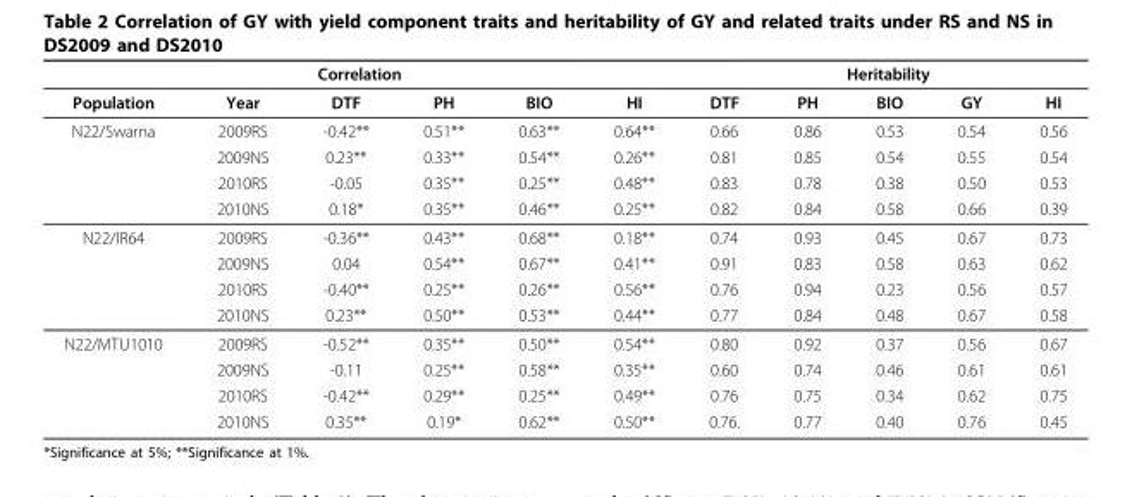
<table><thead><tr><td colspan="6">Correlation</td><td colspan="5">Heritability</td></tr><tr><td>Population</td><td>Year</td><td>DTF</td><td>PH</td><td>BIO</td><td>HI</td><td>DTF</td><td>PH</td><td>BIO</td><td>GY</td><td>HI</td></tr></thead><tbody><tr><td rowspan="4">N22/Swarna</td><td>2009RS</td><td>-0.42**</td><td>0.51**</td><td>0.63**</td><td>0.64**</td><td>0.66</td><td>0.86</td><td>0.53</td><td>0.54</td><td>0.56</td></tr><tr><td>2009NS</td><td>0.23**</td><td>0.33**</td><td>0.54**</td><td>0.26**</td><td>0.81</td><td>0.85</td><td>0.54</td><td>0.55</td><td>0.54</td></tr><tr><td>2010RS</td><td>-0.05</td><td>0.35**</td><td>0.25**</td><td>0.48**</td><td>0.83</td><td>0.78</td><td>0.38</td><td>0.50</td><td>0.53</td></tr><tr><td>2010NS</td><td>0.18*</td><td>0.35**</td><td>0.46**</td><td>0.25**</td><td>0.82</td><td>0.84</td><td>0.58</td><td>0.66</td><td>0.39</td></tr><tr><td rowspan="4">N22/IR64</td><td>2009RS</td><td>-0.36**</td><td>0.43**</td><td>0.68**</td><td>0.18**</td><td>0.74</td><td>0.93</td><td>0.45</td><td>0.67</td><td>0.73</td></tr><tr><td>2009NS</td><td>0.04</td><td>0.54**</td><td>0.67**</td><td>0.41**</td><td>0.91</td><td>0.83</td><td>0.58</td><td>0.63</td><td>0.62</td></tr><tr><td>2010RS</td><td>-0.40**</td><td>0.25**</td><td>0.26**</td><td>0.56**</td><td>0.76</td><td>0.94</td><td>0.23</td><td>0.56</td><td>0.57</td></tr><tr><td>2010NS</td><td>0.23**</td><td>0.50**</td><td>0.53**</td><td>0.44**</td><td>0.77</td><td>0.84</td><td>0.48</td><td>0.67</td><td>0.58</td></tr><tr><td rowspan="4">N22/MTU1010</td><td>2009RS</td><td>-0.52**</td><td>0.35**</td><td>0.50**</td><td>0.54**</td><td>0.80</td><td>0.92</td><td>0.37</td><td>0.56</td><td>0.67</td></tr><tr><td>2009NS</td><td>-0.11</td><td>0.25**</td><td>0.58**</td><td>0.35**</td><td>0.60</td><td>0.74</td><td>0.46</td><td>0.61</td><td>0.61</td></tr><tr><td>2010RS</td><td>-0.42**</td><td>0.29**</td><td>0.25**</td><td>0.49**</td><td>0.76</td><td>0.75</td><td>0.34</td><td>0.62</td><td>0.75</td></tr><tr><td>2010NS</td><td>0.35**</td><td>0.19*</td><td>0.62**</td><td>0.50**</td><td>0.76.</td><td>0.77</td><td>0.40</td><td>0.76</td><td>0.45</td></tr></tbody></table>